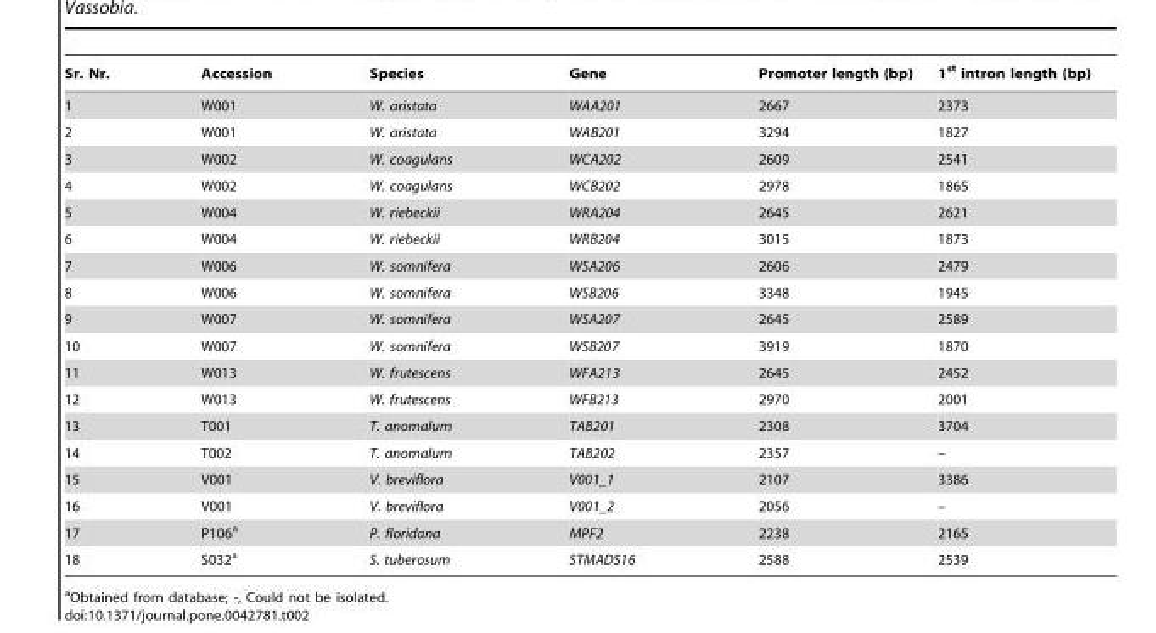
<table><thead><tr><td>Sr. Nr.</td><td>Accession</td><td>Species</td><td>Gene</td><td>Promoter length (bp)</td><td>1<sup>st</sup> intron length (bp)</td></tr></thead><tbody><tr><td>1</td><td>W001</td><td>W. aristata</td><td>WAA201</td><td>2667</td><td>2373</td></tr><tr><td>2</td><td>W001</td><td>W. aristata</td><td>WAB201</td><td>3294</td><td>1827</td></tr><tr><td>3</td><td>W002</td><td>W. coagulans</td><td>WCA202</td><td>2609</td><td>2541</td></tr><tr><td>4</td><td>W002</td><td>W. coagulans</td><td>WCB202</td><td>2978</td><td>1865</td></tr><tr><td>5</td><td>W004</td><td>W. riebeckii</td><td>WRA204</td><td>2645</td><td>2621</td></tr><tr><td>6</td><td>W004</td><td>W. riebeckii</td><td>WRB204</td><td>3015</td><td>1873</td></tr><tr><td>7</td><td>W006</td><td>W. somnifera</td><td>WSA206</td><td>2606</td><td>2479</td></tr><tr><td>8</td><td>W006</td><td>W. somnifera</td><td>WSB206</td><td>3348</td><td>1945</td></tr><tr><td>9</td><td>W007</td><td>W. somnifera</td><td>WSA207</td><td>2645</td><td>2589</td></tr><tr><td>10</td><td>W007</td><td>W. somnifera</td><td>WSB207</td><td>3919</td><td>1870</td></tr><tr><td>11</td><td>W013</td><td>W. frutescens</td><td>WFA213</td><td>2645</td><td>2452</td></tr><tr><td>12</td><td>W013</td><td>W. frutescens</td><td>WFB213</td><td>2970</td><td>2001</td></tr><tr><td>13</td><td>T001</td><td>T. anomalum</td><td>TAB201</td><td>2308</td><td>3704</td></tr><tr><td>14</td><td>T002</td><td>T. anomalum</td><td>TAB202</td><td>2357</td><td>–</td></tr><tr><td>15</td><td>V001</td><td>V. breviflora</td><td>V001_1</td><td>2107</td><td>3386</td></tr><tr><td>16</td><td>V001</td><td>V. breviflora</td><td>V001_2</td><td>2056</td><td>–</td></tr><tr><td>17</td><td>P106<sup>a</sup></td><td>P. floridana</td><td>MPF2</td><td>2238</td><td>2165</td></tr><tr><td>18</td><td>S032<sup>a</sup></td><td>S. tuberosum</td><td>STMADS16</td><td>2588</td><td>2539</td></tr></tbody></table>